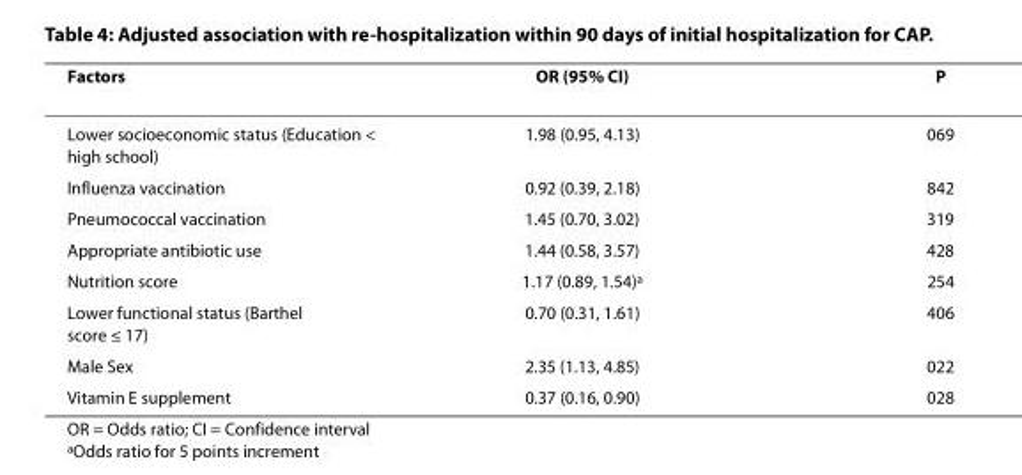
<table><thead><tr><td>Factors</td><td>OR (95% CI)</td><td>P</td></tr></thead><tbody><tr><td>Lower socioeconomic status (Education &lt; high school)</td><td>1.98 (0.95, 4.13)</td><td>069</td></tr><tr><td>Influenza vaccination</td><td>0.92 (0.39, 2.18)</td><td>842</td></tr><tr><td>Pneumococcal vaccination</td><td>1.45 (0.70, 3.02)</td><td>319</td></tr><tr><td>Appropriate antibiotic use</td><td>1.44 (0.58, 3.57)</td><td>428</td></tr><tr><td>Nutrition score</td><td>1.17 (0.89, 1.54)<sup>a</sup></td><td>254</td></tr><tr><td>Lower functional status (Barthel score ≤ 17)</td><td>0.70 (0.31, 1.61)</td><td>406</td></tr><tr><td>Male Sex</td><td>2.35 (1.13, 4.85)</td><td>022</td></tr><tr><td>Vitamin E supplement</td><td>0.37 (0.16, 0.90)</td><td>028</td></tr></tbody></table>